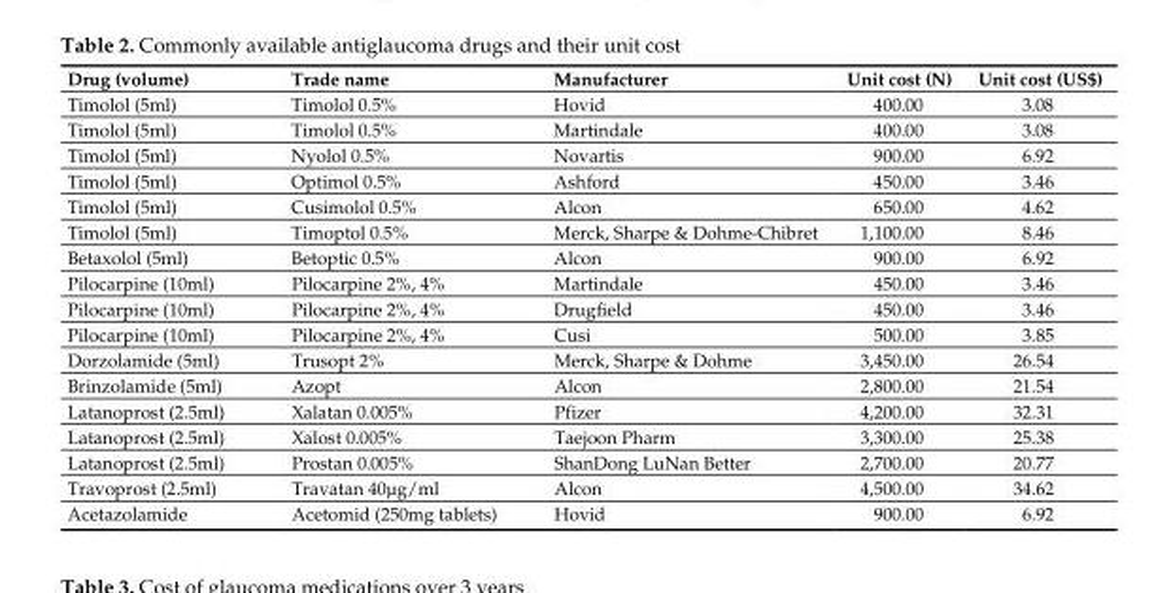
<table><thead><tr><td>Drug (volume)</td><td>Trade name</td><td>Manufacturer</td><td>unit cost (N)</td><td>unit cost (uS$)</td></tr></thead><tbody><tr><td>Timolol (5ml)</td><td>Timolol 0.5%</td><td>Hovid</td><td>400.00</td><td>3.08</td></tr><tr><td>Timolol (5ml)</td><td>Timolol 0.5%</td><td>Martindale</td><td>400.00</td><td>3.08</td></tr><tr><td>Timolol (5ml)</td><td>Nyolol 0.5%</td><td>Novartis</td><td>900.00</td><td>6.92</td></tr><tr><td>Timolol (5ml)</td><td>Optimol 0.5%</td><td>Ashford</td><td>450.00</td><td>3.46</td></tr><tr><td>Timolol (5ml)</td><td>Cusimolol 0.5%</td><td>Alcon</td><td>650.00</td><td>4.62</td></tr><tr><td>Timolol (5ml)</td><td>Timoptol 0.5%</td><td>Merck, Sharpe &amp; Dohme-Chibret</td><td>1,100.00</td><td>8.46</td></tr><tr><td>Betaxolol (5ml)</td><td>Betoptic 0.5%</td><td>Alcon</td><td>900.00</td><td>6.92</td></tr><tr><td>Pilocarpine (10ml)</td><td>Pilocarpine 2%, 4%</td><td>Martindale</td><td>450.00</td><td>3.46</td></tr><tr><td>Pilocarpine (10ml)</td><td>Pilocarpine 2%, 4%</td><td>Drugfield</td><td>450.00</td><td>3.46</td></tr><tr><td>Pilocarpine (10ml)</td><td>Pilocarpine 2%, 4%</td><td>Cusi</td><td>500.00</td><td>3.85</td></tr><tr><td>Dorzolamide (5ml)</td><td>Trusopt 2%</td><td>Merck, Sharpe &amp; Dohme</td><td>3,450.00</td><td>26.54</td></tr><tr><td>Brinzolamide (5ml)</td><td>Azopt</td><td>Alcon</td><td>2,800.00</td><td>21.54</td></tr><tr><td>Latanoprost (2.5ml)</td><td>Xalatan 0.005%</td><td>Pfizer</td><td>4,200.00</td><td>32.31</td></tr><tr><td>Latanoprost (2.5ml)</td><td>Xalost 0.005%</td><td>Taejoon Pharm</td><td>3,300.00</td><td>25.38</td></tr><tr><td>Latanoprost (2.5ml)</td><td>Prostan 0.005%</td><td>ShanDong LuNan Better</td><td>2,700.00</td><td>20.77</td></tr><tr><td>Travoprost (2.5ml)</td><td>Travatan 40μg/ml</td><td>Alcon</td><td>4,500.00</td><td>34.62</td></tr><tr><td>Acetazolamide</td><td>Acetomid (250mg tablets)</td><td>Hovid</td><td>900.00</td><td>6.92</td></tr></tbody></table>